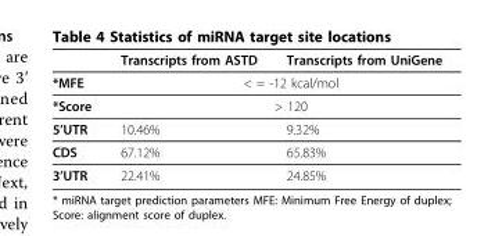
<table><thead><tr><td></td><td>Transcripts from ASTD</td><td>Transcripts from UniGene</td></tr></thead><tbody><tr><td>*MFE</td><td colspan="2">&lt; = -12 kcal/mol</td></tr><tr><td>*Score</td><td colspan="2">&gt; 120</td></tr><tr><td>5’UTR</td><td>10.46%</td><td>9.32%</td></tr><tr><td>CDS</td><td>67.12%</td><td>65.83%</td></tr><tr><td>3’UTR</td><td>22.41%</td><td>24.85%</td></tr></tbody></table>